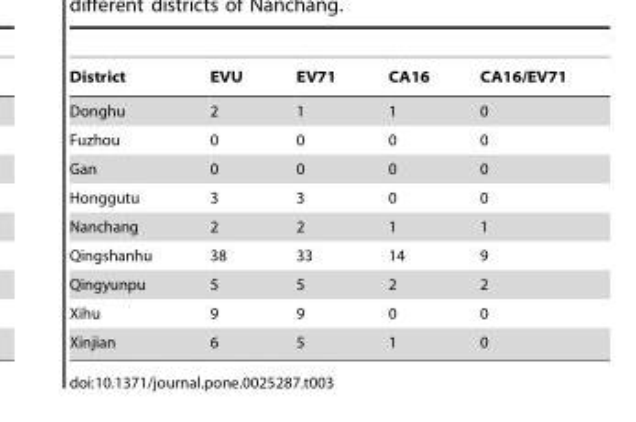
<table><thead><tr><td>District</td><td>EVU</td><td>EV71</td><td>CA16</td><td>CA16/EV71</td></tr></thead><tbody><tr><td>Donghu</td><td>2</td><td>1</td><td>1</td><td>0</td></tr><tr><td>Fuzhou</td><td>0</td><td>0</td><td>0</td><td>0</td></tr><tr><td>Gan</td><td>0</td><td>0</td><td>0</td><td>0</td></tr><tr><td>Honggutu</td><td>3</td><td>3</td><td>0</td><td>0</td></tr><tr><td>Nanchang</td><td>2</td><td>2</td><td>1</td><td>1</td></tr><tr><td>Qingshanhu</td><td>38</td><td>33</td><td>14</td><td>9</td></tr><tr><td>Qingyunpu</td><td>5</td><td>5</td><td>2</td><td>2</td></tr><tr><td>Xihu</td><td>9</td><td>9</td><td>0</td><td>0</td></tr><tr><td>Xinjian</td><td>6</td><td>5</td><td>1</td><td>0</td></tr></tbody></table>